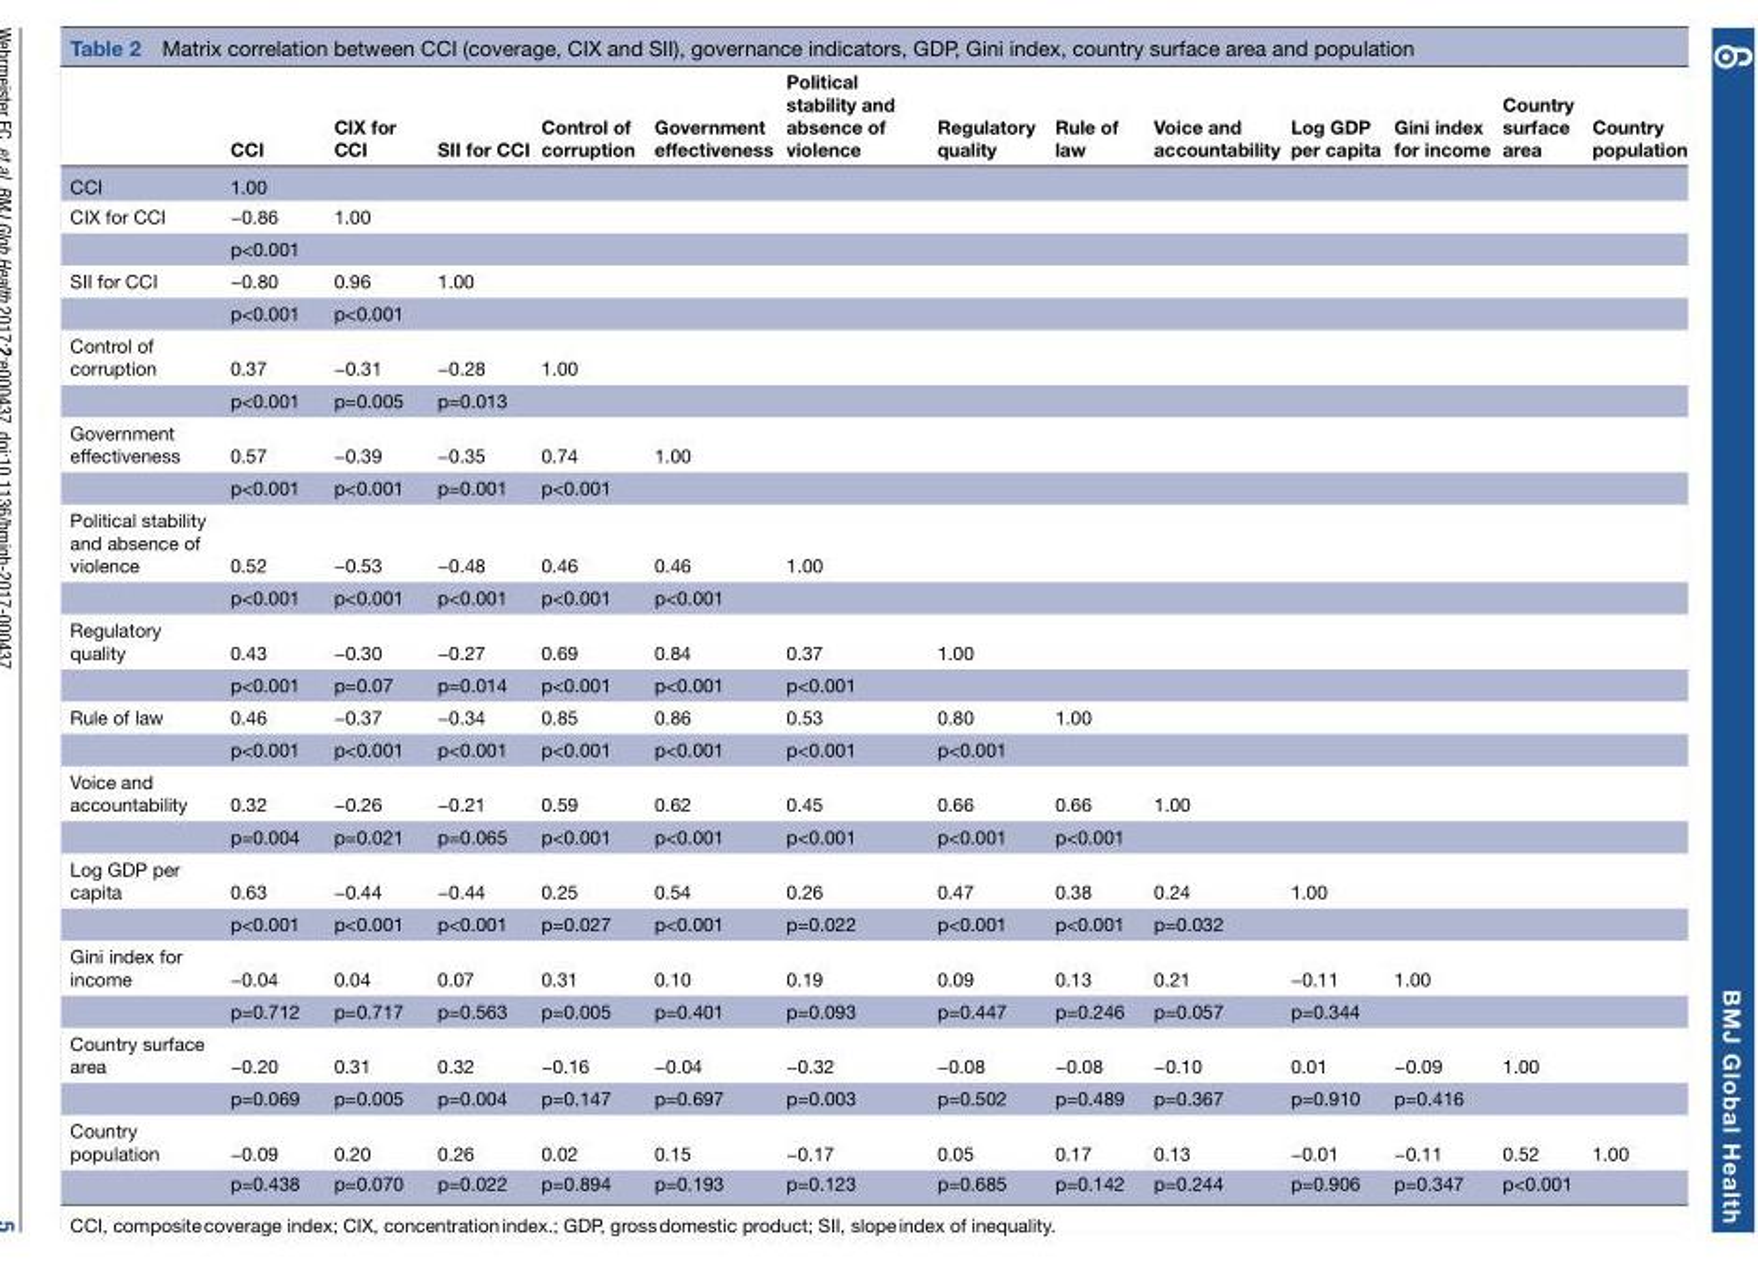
<table><thead><tr><td></td><td>CCI</td><td>CIX for CCI</td><td>SII for CCI</td><td>Control of corruption</td><td>Government effectiveness</td><td>Political stability and absence of violence</td><td>Regulatory quality</td><td>Rule of law</td><td>Voice and accountability</td><td>Log GDP per capita</td><td>Gini index for income</td><td>Country surface area</td><td>Country population</td></tr></thead><tbody><tr><td>CCI</td><td>1.00</td><td></td><td></td><td></td><td></td><td></td><td></td><td></td><td></td><td></td><td></td><td></td><td></td></tr><tr><td rowspan="2">CIX for CCI</td><td>−0.86</td><td>1.00</td><td></td><td></td><td></td><td></td><td></td><td></td><td></td><td></td><td></td><td></td><td></td></tr><tr><td>p&lt;0.001</td><td></td><td></td><td></td><td></td><td></td><td></td><td></td><td></td><td></td><td></td><td></td><td></td></tr><tr><td rowspan="2">SII for CCI</td><td>−0.80</td><td>0.96</td><td>1.00</td><td></td><td></td><td></td><td></td><td></td><td></td><td></td><td></td><td></td><td></td></tr><tr><td>p&lt;0.001</td><td>p&lt;0.001</td><td></td><td></td><td></td><td></td><td></td><td></td><td></td><td></td><td></td><td></td><td></td></tr><tr><td rowspan="2">Control of corruption</td><td>0.37</td><td>−0.31</td><td>−0.28</td><td>1.00</td><td></td><td></td><td></td><td></td><td></td><td></td><td></td><td></td><td></td></tr><tr><td>p&lt;0.001</td><td>p=0.005</td><td>p=0.013</td><td></td><td></td><td></td><td></td><td></td><td></td><td></td><td></td><td></td><td></td></tr><tr><td rowspan="2">Government effectiveness</td><td>0.57</td><td>−0.39</td><td>−0.35</td><td>0.74</td><td>1.00</td><td></td><td></td><td></td><td></td><td></td><td></td><td></td><td></td></tr><tr><td>p&lt;0.001</td><td>p&lt;0.001</td><td>p=0.001</td><td>p&lt;0.001</td><td></td><td></td><td></td><td></td><td></td><td></td><td></td><td></td><td></td></tr><tr><td rowspan="2">Political stability and absence of violence</td><td>0.52</td><td>−0.53</td><td>−0.48</td><td>0.46</td><td>0.46</td><td>1.00</td><td></td><td></td><td></td><td></td><td></td><td></td><td></td></tr><tr><td>p&lt;0.001</td><td>p&lt;0.001</td><td>p&lt;0.001</td><td>p&lt;0.001</td><td>p&lt;0.001</td><td></td><td></td><td></td><td></td><td></td><td></td><td></td><td></td></tr><tr><td rowspan="2">Regulatory quality</td><td>0.43</td><td>−0.30</td><td>−0.27</td><td>0.69</td><td>0.84</td><td>0.37</td><td>1.00</td><td></td><td></td><td></td><td></td><td></td><td></td></tr><tr><td>p&lt;0.001</td><td>p=0.07</td><td>p=0.014</td><td>p&lt;0.001</td><td>p&lt;0.001</td><td>p&lt;0.001</td><td></td><td></td><td></td><td></td><td></td><td></td><td></td></tr><tr><td rowspan="2">Rule of law</td><td>0.46</td><td>−0.37</td><td>−0.34</td><td>0.85</td><td>0.86</td><td>0.53</td><td>0.80</td><td>1.00</td><td></td><td></td><td></td><td></td><td></td></tr><tr><td>p&lt;0.001</td><td>p&lt;0.001</td><td>p&lt;0.001</td><td>p&lt;0.001</td><td>p&lt;0.001</td><td>p&lt;0.001</td><td>p&lt;0.001</td><td></td><td></td><td></td><td></td><td></td><td></td></tr><tr><td rowspan="2">Voice and accountability</td><td>0.32</td><td>−0.26</td><td>−0.21</td><td>0.59</td><td>0.62</td><td>0.45</td><td>0.66</td><td>0.66</td><td>1.00</td><td></td><td></td><td></td><td></td></tr><tr><td>p=0.004</td><td>p=0.021</td><td>p=0.065</td><td>p&lt;0.001</td><td>p&lt;0.001</td><td>p&lt;0.001</td><td>p&lt;0.001</td><td>p&lt;0.001</td><td></td><td></td><td></td><td></td><td></td></tr><tr><td rowspan="2">Log GDP per capita</td><td>0.63</td><td>−0.44</td><td>−0.44</td><td>0.25</td><td>0.54</td><td>0.26</td><td>0.47</td><td>0.38</td><td>0.24</td><td>1.00</td><td></td><td></td><td></td></tr><tr><td>p&lt;0.001</td><td>p&lt;0.001</td><td>p&lt;0.001</td><td>p=0.027</td><td>p&lt;0.001</td><td>p=0.022</td><td>p&lt;0.001</td><td>p&lt;0.001</td><td>p=0.032</td><td></td><td></td><td></td><td></td></tr><tr><td rowspan="2">Gini index for income</td><td>−0.04</td><td>0.04</td><td>0.07</td><td>0.31</td><td>0.10</td><td>0.19</td><td>0.09</td><td>0.13</td><td>0.21</td><td>−0.11</td><td>1.00</td><td></td><td></td></tr><tr><td>p=0.712</td><td>p=0.717</td><td>p=0.563</td><td>p=0.005</td><td>p=0.401</td><td>p=0.093</td><td>p=0.447</td><td>p=0.246</td><td>p=0.057</td><td>p=0.344</td><td></td><td></td><td></td></tr><tr><td rowspan="2">Country surface area</td><td>−0.20</td><td>0.31</td><td>0.32</td><td>−0.16</td><td>−0.04</td><td>−0.32</td><td>−0.08</td><td>−0.08</td><td>−0.10</td><td>0.01</td><td>−0.09</td><td>1.00</td><td></td></tr><tr><td>p=0.069</td><td>p=0.005</td><td>p=0.004</td><td>p=0.147</td><td>p=0.697</td><td>p=0.003</td><td>p=0.502</td><td>p=0.489</td><td>p=0.367</td><td>p=0.910</td><td>p=0.416</td><td></td><td></td></tr><tr><td rowspan="2">Country population</td><td>−0.09</td><td>0.20</td><td>0.26</td><td>0.02</td><td>0.15</td><td>−0.17</td><td>0.05</td><td>0.17</td><td>0.13</td><td>−0.01</td><td>−0.11</td><td>0.52</td><td>1.00</td></tr><tr><td>p=0.438</td><td>p=0.070</td><td>p=0.022</td><td>p=0.894</td><td>p=0.193</td><td>p=0.123</td><td>p=0.685</td><td>p=0.142</td><td>p=0.244</td><td>p=0.906</td><td>p=0.347</td><td>p&lt;0.001</td><td></td></tr></tbody></table>